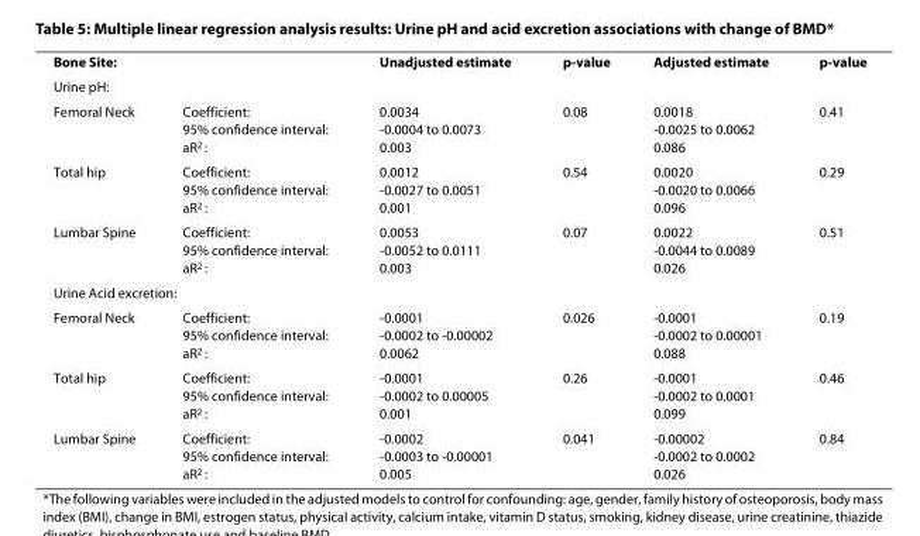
<table><tbody><tr><td>Bone Site:</td><td></td><td>Unadjusted estimate</td><td>p-value</td><td>Adjusted estimate</td><td>p-value</td></tr><tr><td colspan="6">Urine pH:</td></tr><tr><td>Femoral Neck</td><td>Coefficient: 95% confidence interval: aR<sup>2</sup> :</td><td>0.0034 -0.0004 to 0.0073 0.003</td><td>0.08</td><td>0.0018 -0.0025 to 0.0062 0.086</td><td>0.41</td></tr><tr><td>Total hip</td><td>Coefficient: 95% confidence interval: aR<sup>2</sup> :</td><td>0.0012 -0.0027 to 0.0051 0.001</td><td>0.54</td><td>0.0020 -0.0020 to 0.0066 0.096</td><td>0.29</td></tr><tr><td>Lumbar Spine</td><td>Coefficient: 95% confidence interval: aR<sup>2</sup> :</td><td>0.0053 -0.0052 to 0.0111 0.003</td><td>0.07</td><td>0.0022 -0.0044 to 0.0089 0.026</td><td>0.51</td></tr><tr><td colspan="6">Urine Acid excretion:</td></tr><tr><td>Femoral Neck</td><td>Coefficient: 95% confidence interval: aR<sup>2</sup> :</td><td>-0.0001 -0.0002 to -0.00002 0.0062</td><td>0.026</td><td>-0.0001 -0.0002 to 0.00001 0.088</td><td>0.19</td></tr><tr><td>Total hip</td><td>Coefficient: 95% confidence interval: aR<sup>2</sup> :</td><td>-0.0001 -0.0002 to 0.00005 0.001</td><td>0.26</td><td>-0.0001 -0.0002 to 0.0001 0.099</td><td>0.46</td></tr><tr><td>Lumbar Spine</td><td>Coefficient: 95% confidence interval: aR<sup>2</sup> :</td><td>-0.0002 -0.0003 to -0.00001 0.005</td><td>0.041</td><td>-0.00002 -0.0002 to 0.0002 0.026</td><td>0.84</td></tr></tbody></table>